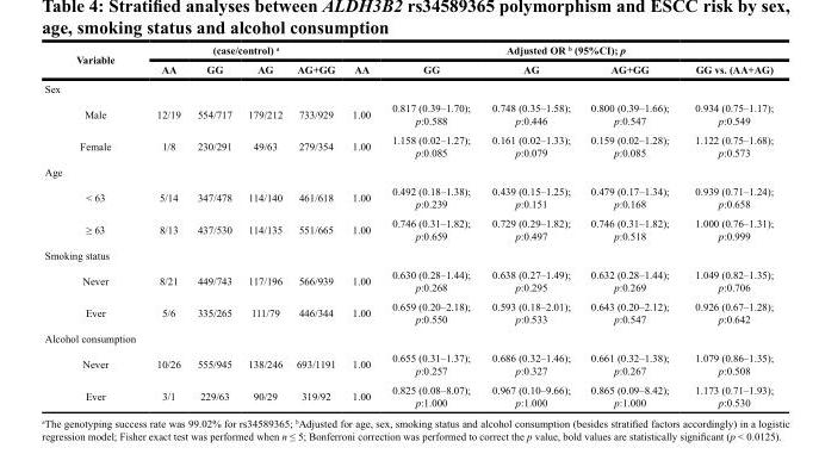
<table><thead><tr><td rowspan="2">Variable</td><td colspan="4">(case/control) <sup>a</sup></td><td colspan="5">Adjusted OR <sup>b</sup> (95%CI); p</td></tr><tr><td>AA</td><td>GG</td><td>AG</td><td>AG+GG</td><td>AA</td><td>GG</td><td>AG</td><td>AG+GG</td><td>GG vs. (AA+AG)</td></tr></thead><tbody><tr><td colspan="10">Sex</td></tr><tr><td>Male</td><td>12/19</td><td>554/717</td><td>179/212</td><td>733/929</td><td>1.00</td><td>0.817 (0.39–1.70); p:0.588</td><td>0.748 (0.35–1.58); p:0.446</td><td>0.800 (0.39–1.66); p:0.547</td><td>0.934 (0.75–1.17); p:0.549</td></tr><tr><td>Female</td><td>1/8</td><td>230/291</td><td>49/63</td><td>279/354</td><td>1.00</td><td>1.158 (0.02–1.27); p:0.085</td><td>0.161 (0.02–1.33); p:0.079</td><td>0.159 (0.02–1.28); p:0.085</td><td>1.122 (0.75–1.68); p:0.573</td></tr><tr><td colspan="10">Age</td></tr><tr><td>&lt; 63</td><td>5/14</td><td>347/478</td><td>114/140</td><td>461/618</td><td>1.00</td><td>0.492 (0.18–1.38); p:0.239</td><td>0.439 (0.15–1.25); p:0.151</td><td>0.479 (0.17–1.34); p:0.168</td><td>0.939 (0.71–1.24); p:0.658</td></tr><tr><td>≥ 63</td><td>8/13</td><td>437/530</td><td>114/135</td><td>551/665</td><td>1.00</td><td>0.746 (0.31–1.82); p:0.659</td><td>0.729 (0.29–1.82); p:0.497</td><td>0.746 (0.31–1.82); p:0.518</td><td>1.000 (0.76–1.31); p:0.999</td></tr><tr><td colspan="10">Smoking status</td></tr><tr><td>Never</td><td>8/21</td><td>449/743</td><td>117/196</td><td>566/939</td><td>1.00</td><td>0.630 (0.28–1.44); p:0.268</td><td>0.638 (0.27–1.49); p:0.295</td><td>0.632 (0.28–1.44); p:0.269</td><td>1.049 (0.82–1.35); p:0.706</td></tr><tr><td>Ever</td><td>5/6</td><td>335/265</td><td>111/79</td><td>446/344</td><td>1.00</td><td>0.659 (0.20–2.18); p:0.550</td><td>0.593 (0.18–2.01); p:0.533</td><td>0.643 (0.20–2.12); p:0.547</td><td>0.926 (0.67–1.28); p:0.642</td></tr><tr><td colspan="10">Alcohol consumption</td></tr><tr><td>Never</td><td>10/26</td><td>555/945</td><td>138/246</td><td>693/1191</td><td>1.00</td><td>0.655 (0.31–1.37); p:0.257</td><td>0.686 (0.32–1.46); p:0.327</td><td>0.661 (0.32–1.38); p:0.267</td><td>1.079 (0.86–1.35); p:0.508</td></tr><tr><td>Ever</td><td>3/1</td><td>229/63</td><td>90/29</td><td>319/92</td><td>1.00</td><td>0.825 (0.08–8.07); p:1.000</td><td>0.967 (0.10–9.66); p:1.000</td><td>0.865 (0.09–8.42); p:1.000</td><td>1.173 (0.71–1.93); p:0.530</td></tr></tbody></table>